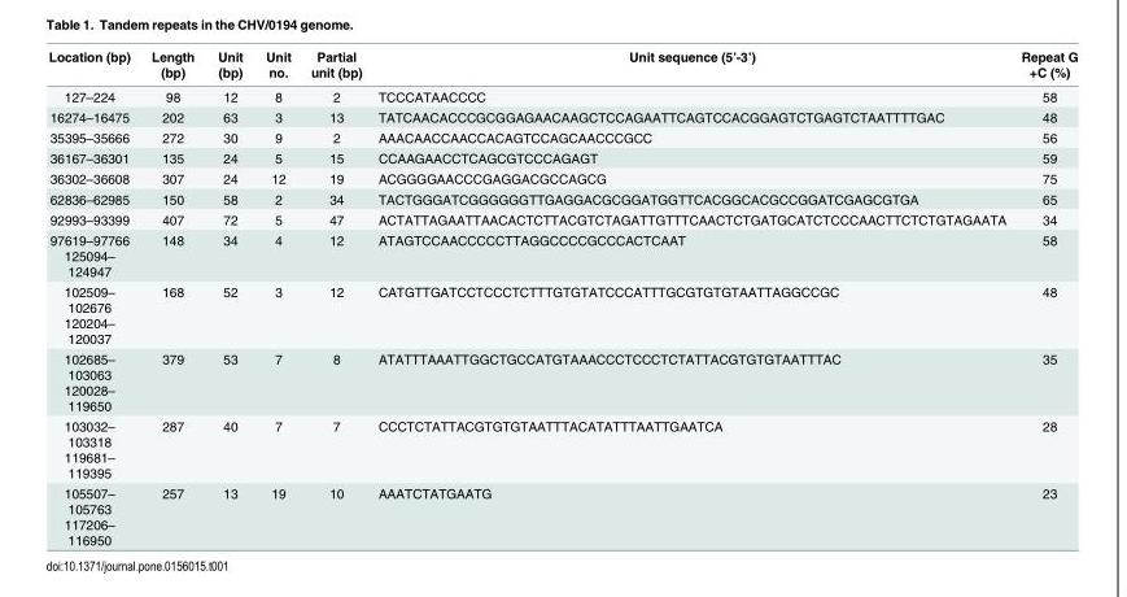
<table><thead><tr><td>Location (bp)</td><td>Length (bp)</td><td>Unit (bp)</td><td>Unit no.</td><td>Partial unit (bp)</td><td>Unit sequence (5’-3’)</td><td>Repeat G +C (%)</td></tr></thead><tbody><tr><td>127–224</td><td>98</td><td>12</td><td>8</td><td>2</td><td>TCCCATAACCCC</td><td>58</td></tr><tr><td>16274–16475</td><td>202</td><td>63</td><td>3</td><td>13</td><td>TATCAACACCCGCGGAGAACAAGCTCCAGAATTCAGTCCACGGAGTCTGAGTCTAATTTTGAC</td><td>48</td></tr><tr><td>35395–35666</td><td>272</td><td>30</td><td>9</td><td>2</td><td>AAACAACCAACCACAGTCCAGCAACCCGCC</td><td>56</td></tr><tr><td>36167–36301</td><td>135</td><td>24</td><td>5</td><td>15</td><td>CCAAGAACCTCAGCGTCCCAGAGT</td><td>59</td></tr><tr><td>36302–36608</td><td>307</td><td>24</td><td>12</td><td>19</td><td>ACGGGGAACCCGAGGACGCCAGCG</td><td>75</td></tr><tr><td>62836–62985</td><td>150</td><td>58</td><td>2</td><td>34</td><td>TACTGGGATCGGGGGGTTGAGGACGCGGATGGTTCACGGCACGCCGGATCGAGCGTGA</td><td>65</td></tr><tr><td>92993–93399</td><td>407</td><td>72</td><td>5</td><td>47</td><td>ACTATTAGAATTAACACTCTTACGTCTAGATTGTTTCAACTCTGATGCATCTCCCAACTTCTCTGTAGAATA</td><td>34</td></tr><tr><td>97619–97766 125094– 124947</td><td>148</td><td>34</td><td>4</td><td>12</td><td>ATAGTCCAACCCCCTTAGGCCCCGCCCACTCAAT</td><td>58</td></tr><tr><td>102509– 102676 120204– 120037</td><td>168</td><td>52</td><td>3</td><td>12</td><td>CATGTTGATCCTCCCTCTTTGTGTATCCCATTTGCGTGTGTAATTAGGCCGC</td><td>48</td></tr><tr><td>102685– 103063 120028– 119650</td><td>379</td><td>53</td><td>7</td><td>8</td><td>ATATTTAAATTGGCTGCCATGTAAACCCTCCCTCTATTACGTGTGTAATTTAC</td><td>35</td></tr><tr><td>103032– 103318 119681– 119395</td><td>287</td><td>40</td><td>7</td><td>7</td><td>CCCTCTATTACGTGTGTAATTTACATATTTAATTGAATCA</td><td>28</td></tr><tr><td>105507– 105763 117206– 116950</td><td>257</td><td>13</td><td>19</td><td>10</td><td>AAATCTATGAATG</td><td>23</td></tr></tbody></table>